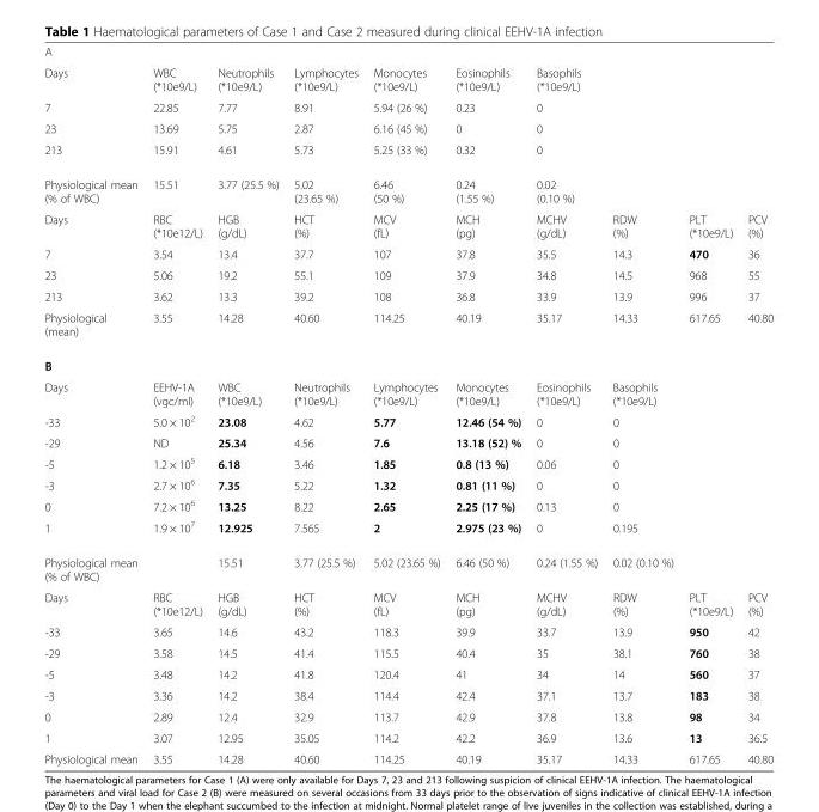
<table><tbody><tr><td colspan="10">A</td></tr><tr><td>Days</td><td>WBC (*10e9/L)</td><td>Neutrophils (*10e9/L)</td><td>Lymphocytes (*10e9/L)</td><td>Monocytes (*10e9/L)</td><td>Eosinophils (*10e9/L)</td><td>Basophils (*10e9/L)</td><td></td><td></td><td></td></tr><tr><td>7</td><td>22.85</td><td>7.77</td><td>8.91</td><td>5.94 (26 %)</td><td>0.23</td><td>0</td><td></td><td></td><td></td></tr><tr><td>23</td><td>13.69</td><td>5.75</td><td>2.87</td><td>6.16 (45 %)</td><td>0</td><td>0</td><td></td><td></td><td></td></tr><tr><td>213</td><td>15.91</td><td>4.61</td><td>5.73</td><td>5.25 (33 %)</td><td>0.32</td><td>0</td><td></td><td></td><td></td></tr><tr><td>Physiological mean (% of WBC)</td><td>15.51</td><td>3.77 (25.5 %)</td><td>5.02 (23.65 %)</td><td>6.46 (50 %)</td><td>0.24 (1.55 %)</td><td>0.02 (0.10 %)</td><td></td><td></td><td></td></tr><tr><td>Days</td><td>RBC (*10e12/L)</td><td>HGB (g/dL)</td><td>HCT (%)</td><td>MCV (fL)</td><td>MCH (pg)</td><td>MCHV (g/dL)</td><td>RDW (%)</td><td>PLT (*10e9/L)</td><td>PCV (%)</td></tr><tr><td>7</td><td>3.54</td><td>13.4</td><td>37.7</td><td>107</td><td>37.8</td><td>35.5</td><td>14.3</td><td>470</td><td>36</td></tr><tr><td>23</td><td>5.06</td><td>19.2</td><td>55.1</td><td>109</td><td>37.9</td><td>34.8</td><td>14.5</td><td>968</td><td>55</td></tr><tr><td>213</td><td>3.62</td><td>13.3</td><td>39.2</td><td>108</td><td>36.8</td><td>33.9</td><td>13.9</td><td>996</td><td>37</td></tr><tr><td>Physiological (mean)</td><td>3.55</td><td>14.28</td><td>40.60</td><td>114.25</td><td>40.19</td><td>35.17</td><td>14.33</td><td>617.65</td><td>40.80</td></tr><tr><td colspan="10">B</td></tr><tr><td>Days</td><td>EEHV-1A (vgc/ml)</td><td>WBC (*10e9/L)</td><td>Neutrophils (*10e9/L)</td><td>Lymphocytes (*10e9/L)</td><td>Monocytes (*10e9/L)</td><td>Eosinophils (*10e9/L)</td><td>Basophils (*10e9/L)</td><td></td><td></td></tr><tr><td>-33</td><td>5.0 × 10<sup>2</sup></td><td>23.08</td><td>4.62</td><td>5.77</td><td>12.46 (54 %)</td><td>0</td><td>0</td><td></td><td></td></tr><tr><td>-29</td><td>ND</td><td>25.34</td><td>4.56</td><td>7.6</td><td>13.18 (52) %</td><td>0</td><td>0</td><td></td><td></td></tr><tr><td>-5</td><td>1.2 × 10<sup>5</sup></td><td>6.18</td><td>3.46</td><td>1.85</td><td>0.8 (13 %)</td><td>0.06</td><td>0</td><td></td><td></td></tr><tr><td>-3</td><td>2.7 × 10<sup>6</sup></td><td>7.35</td><td>5.22</td><td>1.32</td><td>0.81 (11 %)</td><td>0</td><td>0</td><td></td><td></td></tr><tr><td>0</td><td>7.2 × 10<sup>6</sup></td><td>13.25</td><td>8.22</td><td>2.65</td><td>2.25 (17 %)</td><td>0.13</td><td>0</td><td></td><td></td></tr><tr><td>1</td><td>1.9 × 10<sup>7</sup></td><td>12.925</td><td>7.565</td><td>2</td><td>2.975 (23 %)</td><td>0</td><td>0.195</td><td></td><td></td></tr><tr><td>Physiological mean (% of WBC)</td><td></td><td>15.51</td><td>3.77 (25.5 %)</td><td>5.02 (23.65 %)</td><td>6.46 (50 %)</td><td>0.24 (1.55 %)</td><td>0.02 (0.10 %)</td><td></td><td></td></tr><tr><td>Days</td><td>RBC (*10e12/L)</td><td>HGB (g/dL)</td><td>HCT (%)</td><td>MCV (fL)</td><td>MCH (pg)</td><td>MCHV (g/dL)</td><td>RDW (%)</td><td>PLT (*10e9/L)</td><td>PCV (%)</td></tr><tr><td>-33</td><td>3.65</td><td>14.6</td><td>43.2</td><td>118.3</td><td>39.9</td><td>33.7</td><td>13.9</td><td>950</td><td>42</td></tr><tr><td>-29</td><td>3.58</td><td>14.5</td><td>41.4</td><td>115.5</td><td>40.4</td><td>35</td><td>38.1</td><td>760</td><td>38</td></tr><tr><td>-5</td><td>3.48</td><td>14.2</td><td>41.8</td><td>120.4</td><td>41</td><td>34</td><td>14</td><td>560</td><td>37</td></tr><tr><td>-3</td><td>3.36</td><td>14.2</td><td>38.4</td><td>114.4</td><td>42.4</td><td>37.1</td><td>13.7</td><td>183</td><td>38</td></tr><tr><td>0</td><td>2.89</td><td>12.4</td><td>32.9</td><td>113.7</td><td>42.9</td><td>37.8</td><td>13.8</td><td>98</td><td>34</td></tr><tr><td>1</td><td>3.07</td><td>12.95</td><td>35.05</td><td>114.2</td><td>42.2</td><td>36.9</td><td>13.6</td><td>13</td><td>36.5</td></tr><tr><td>Physiological mean</td><td>3.55</td><td>14.28</td><td>40.60</td><td>114.25</td><td>40.19</td><td>35.17</td><td>14.33</td><td>617.65</td><td>40.80</td></tr></tbody></table>